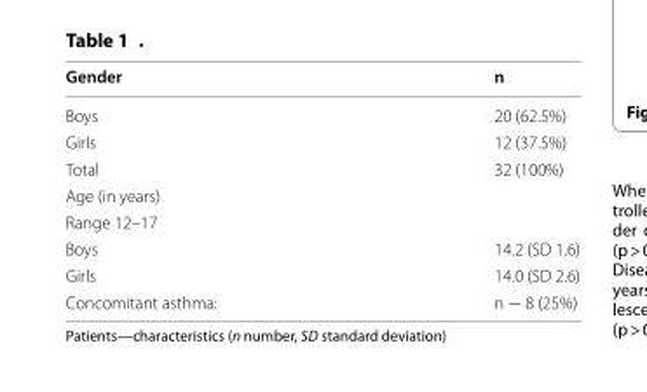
<table><thead><tr><td>Gender</td><td>n</td></tr></thead><tbody><tr><td>Boys</td><td>20 (62.5%)</td></tr><tr><td>Girls</td><td>12 (37.5%)</td></tr><tr><td>Total</td><td>32 (100%)</td></tr><tr><td colspan="2">Age (in years)</td></tr><tr><td colspan="2">Range 12–17</td></tr><tr><td>Boys</td><td>14.2 (SD 1.6)</td></tr><tr><td>Girls</td><td>14.0 (SD 2.6)</td></tr><tr><td>Concomitant asthma:</td><td>n − 8 (25%)</td></tr></tbody></table>